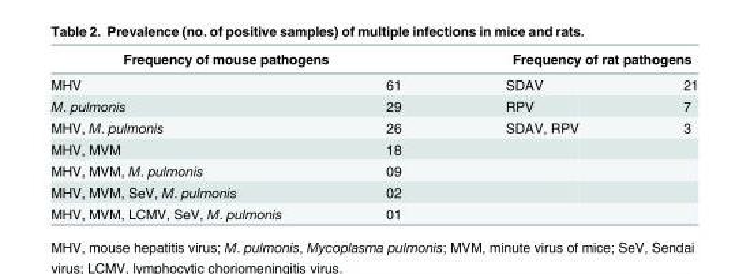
<table><thead><tr><td colspan="2">Frequency of mouse pathogens</td><td colspan="2">Frequency of rat pathogens</td></tr><tr><td>MHV</td><td>61</td><td>SDAV</td><td>21</td></tr></thead><tbody><tr><td>M. pulmonis</td><td>29</td><td>RPV</td><td>7</td></tr><tr><td>MHV, M. pulmonis</td><td>26</td><td>SDAV, RPV</td><td>3</td></tr><tr><td>MHV, MVM</td><td>18</td><td></td><td></td></tr><tr><td>MHV, MVM, M. pulmonis</td><td>09</td><td></td><td></td></tr><tr><td>MHV, MVM, SeV, M. pulmonis</td><td>02</td><td></td><td></td></tr><tr><td>MHV, MVM, LCMV, SeV, M. pulmonis</td><td>01</td><td></td><td></td></tr></tbody></table>